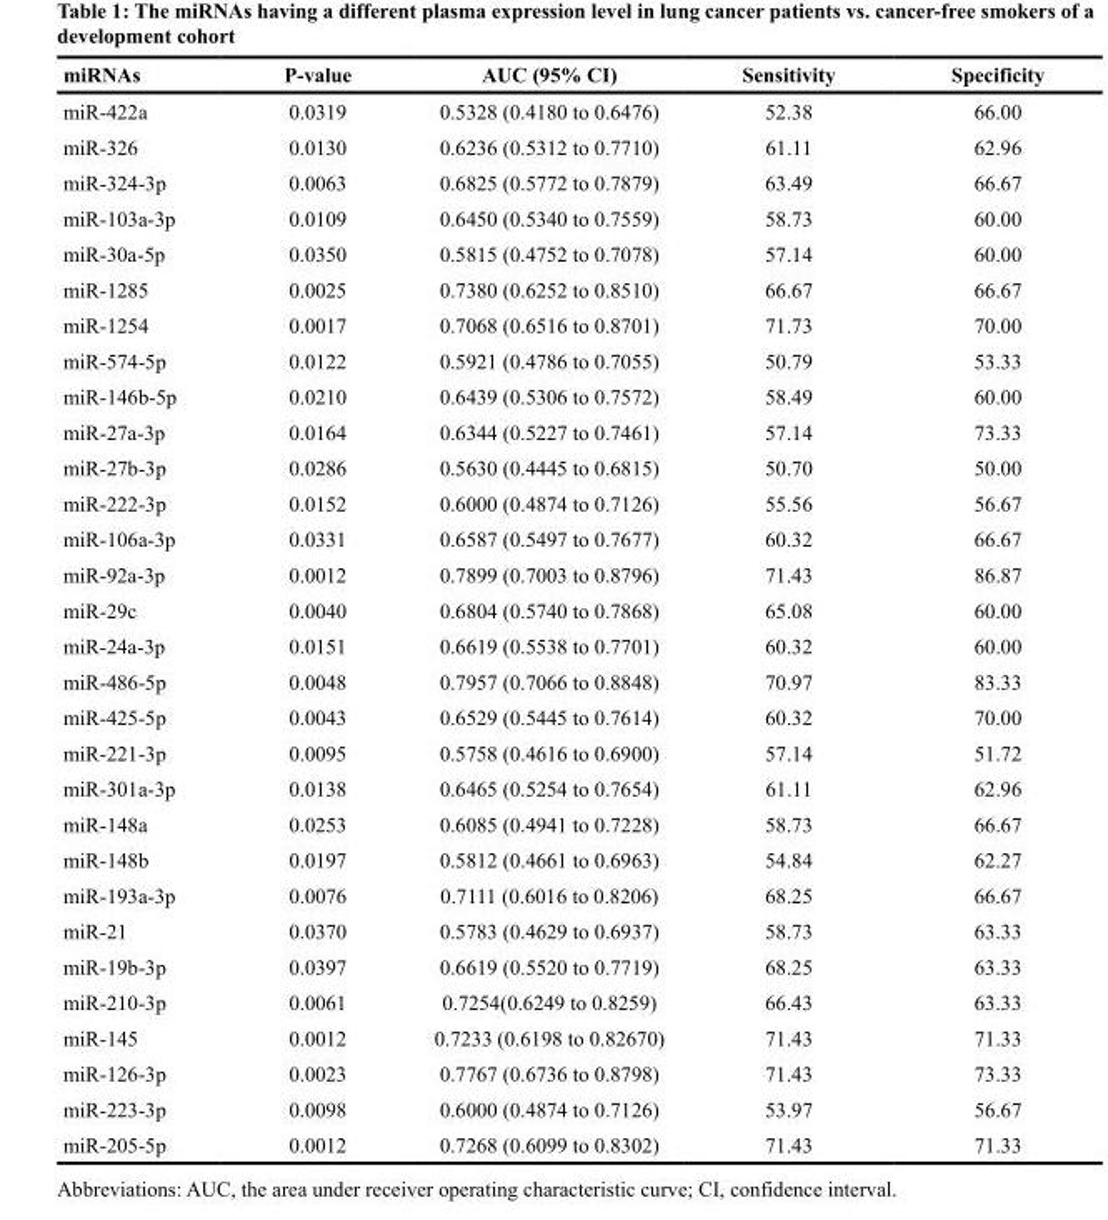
<table><thead><tr><td>miRNAs</td><td>P-value</td><td>AUC (95% CI)</td><td>Sensitivity</td><td>Specificity</td></tr></thead><tbody><tr><td>miR-422a</td><td>0.0319</td><td>0.5328 (0.4180 to 0.6476)</td><td>52.38</td><td>66.00</td></tr><tr><td>miR-326</td><td>0.0130</td><td>0.6236 (0.5312 to 0.7710)</td><td>61.11</td><td>62.96</td></tr><tr><td>miR-324-3p</td><td>0.0063</td><td>0.6825 (0.5772 to 0.7879)</td><td>63.49</td><td>66.67</td></tr><tr><td>miR-103a-3p</td><td>0.0109</td><td>0.6450 (0.5340 to 0.7559)</td><td>58.73</td><td>60.00</td></tr><tr><td>miR-30a-5p</td><td>0.0350</td><td>0.5815 (0.4752 to 0.7078)</td><td>57.14</td><td>60.00</td></tr><tr><td>miR-1285</td><td>0.0025</td><td>0.7380 (0.6252 to 0.8510)</td><td>66.67</td><td>66.67</td></tr><tr><td>miR-1254</td><td>0.0017</td><td>0.7068 (0.6516 to 0.8701)</td><td>71.73</td><td>70.00</td></tr><tr><td>miR-574-5p</td><td>0.0122</td><td>0.5921 (0.4786 to 0.7055)</td><td>50.79</td><td>53.33</td></tr><tr><td>miR-146b-5p</td><td>0.0210</td><td>0.6439 (0.5306 to 0.7572)</td><td>58.49</td><td>60.00</td></tr><tr><td>miR-27a-3p</td><td>0.0164</td><td>0.6344 (0.5227 to 0.7461)</td><td>57.14</td><td>73.33</td></tr><tr><td>miR-27b-3p</td><td>0.0286</td><td>0.5630 (0.4445 to 0.6815)</td><td>50.70</td><td>50.00</td></tr><tr><td>miR-222-3p</td><td>0.0152</td><td>0.6000 (0.4874 to 0.7126)</td><td>55.56</td><td>56.67</td></tr><tr><td>miR-106a-3p</td><td>0.0331</td><td>0.6587 (0.5497 to 0.7677)</td><td>60.32</td><td>66.67</td></tr><tr><td>miR-92a-3p</td><td>0.0012</td><td>0.7899 (0.7003 to 0.8796)</td><td>71.43</td><td>86.87</td></tr><tr><td>miR-29c</td><td>0.0040</td><td>0.6804 (0.5740 to 0.7868)</td><td>65.08</td><td>60.00</td></tr><tr><td>miR-24a-3p</td><td>0.0151</td><td>0.6619 (0.5538 to 0.7701)</td><td>60.32</td><td>60.00</td></tr><tr><td>miR-486-5p</td><td>0.0048</td><td>0.7957 (0.7066 to 0.8848)</td><td>70.97</td><td>83.33</td></tr><tr><td>miR-425-5p</td><td>0.0043</td><td>0.6529 (0.5445 to 0.7614)</td><td>60.32</td><td>70.00</td></tr><tr><td>miR-221-3p</td><td>0.0095</td><td>0.5758 (0.4616 to 0.6900)</td><td>57.14</td><td>51.72</td></tr><tr><td>miR-301a-3p</td><td>0.0138</td><td>0.6465 (0.5254 to 0.7654)</td><td>61.11</td><td>62.96</td></tr><tr><td>miR-148a</td><td>0.0253</td><td>0.6085 (0.4941 to 0.7228)</td><td>58.73</td><td>66.67</td></tr><tr><td>miR-148b</td><td>0.0197</td><td>0.5812 (0.4661 to 0.6963)</td><td>54.84</td><td>62.27</td></tr><tr><td>miR-193a-3p</td><td>0.0076</td><td>0.7111 (0.6016 to 0.8206)</td><td>68.25</td><td>66.67</td></tr><tr><td>miR-21</td><td>0.0370</td><td>0.5783 (0.4629 to 0.6937)</td><td>58.73</td><td>63.33</td></tr><tr><td>miR-19b-3p</td><td>0.0397</td><td>0.6619 (0.5520 to 0.7719)</td><td>68.25</td><td>63.33</td></tr><tr><td>miR-210-3p</td><td>0.0061</td><td>0.7254(0.6249 to 0.8259)</td><td>66.43</td><td>63.33</td></tr><tr><td>miR-145</td><td>0.0012</td><td>0.7233 (0.6198 to 0.82670)</td><td>71.43</td><td>71.33</td></tr><tr><td>miR-126-3p</td><td>0.0023</td><td>0.7767 (0.6736 to 0.8798)</td><td>71.43</td><td>73.33</td></tr><tr><td>miR-223-3p</td><td>0.0098</td><td>0.6000 (0.4874 to 0.7126)</td><td>53.97</td><td>56.67</td></tr><tr><td>miR-205-5p</td><td>0.0012</td><td>0.7268 (0.6099 to 0.8302)</td><td>71.43</td><td>71.33</td></tr></tbody></table>